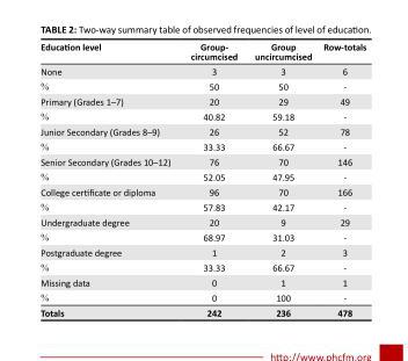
<table><thead><tr><td>Education level</td><td>Group- circumcised</td><td>Group uncircumcised</td><td>Row-totals</td></tr></thead><tbody><tr><td>None</td><td>3</td><td>3</td><td>6</td></tr><tr><td>%</td><td>50</td><td>50</td><td>-</td></tr><tr><td>Primary (Grades 1–7)</td><td>20</td><td>29</td><td>49</td></tr><tr><td>%</td><td>40.82</td><td>59.18</td><td>-</td></tr><tr><td>Junior Secondary (Grades 8–9)</td><td>26</td><td>52</td><td>78</td></tr><tr><td>%</td><td>33.33</td><td>66.67</td><td>-</td></tr><tr><td>Senior Secondary (Grades 10–12)</td><td>76</td><td>70</td><td>146</td></tr><tr><td>%</td><td>52.05</td><td>47.95</td><td>-</td></tr><tr><td>College certificate or diploma</td><td>96</td><td>70</td><td>166</td></tr><tr><td>%</td><td>57.83</td><td>42.17</td><td>-</td></tr><tr><td>Undergraduate degree</td><td>20</td><td>9</td><td>29</td></tr><tr><td>%</td><td>68.97</td><td>31.03</td><td>-</td></tr><tr><td>Postgraduate degree</td><td>1</td><td>2</td><td>3</td></tr><tr><td>%</td><td>33.33</td><td>66.67</td><td>-</td></tr><tr><td>Missing data</td><td>0</td><td>1</td><td>1</td></tr><tr><td>%</td><td>0</td><td>100</td><td>-</td></tr><tr><td>Totals</td><td>242</td><td>236</td><td>478</td></tr></tbody></table>